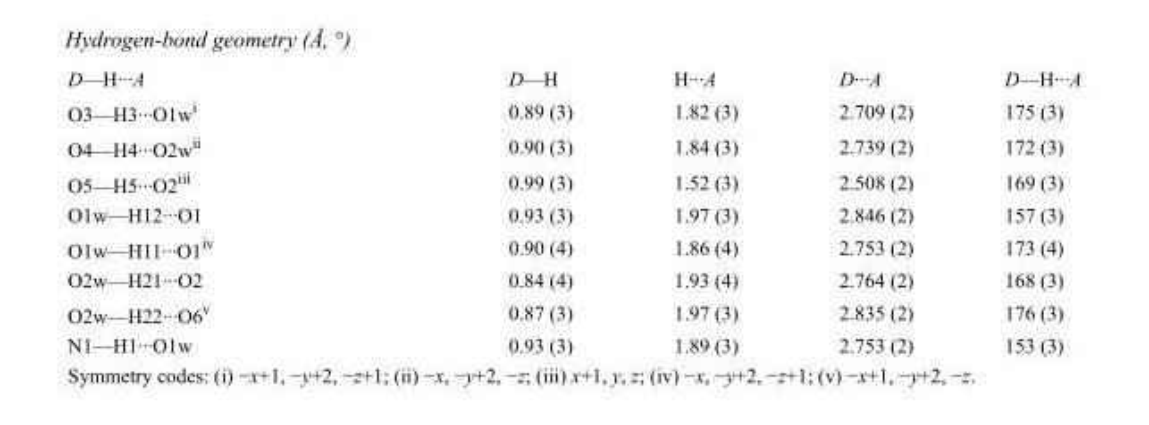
<table><tbody><tr><td>D—H···A</td><td>D—H</td><td>H···A</td><td>D···A</td><td>D—H···A</td></tr><tr><td>O3—H3···O1w<sup>i</sup></td><td>0.89 (3)</td><td>1.82 (3)</td><td>2.709 (2)</td><td>175 (3)</td></tr><tr><td>O4—H4···O2w<sup>ii</sup></td><td>0.90 (3)</td><td>1.84 (3)</td><td>2.739 (2)</td><td>172 (3)</td></tr><tr><td>O5—H5···O2<sup>iii</sup></td><td>0.99 (3)</td><td>1.52 (3)</td><td>2.508 (2)</td><td>169 (3)</td></tr><tr><td>O1w—H12···O1</td><td>0.93 (3)</td><td>1.97 (3)</td><td>2.846 (2)</td><td>157 (3)</td></tr><tr><td>O1w—H11···O1<sup>iv</sup></td><td>0.90 (4)</td><td>1.86 (4)</td><td>2.753 (2)</td><td>173 (4)</td></tr><tr><td>O2w—H21···O2</td><td>0.84 (4)</td><td>1.93 (4)</td><td>2.764 (2)</td><td>168 (3)</td></tr><tr><td>O2w—H22···O6<sup>v</sup></td><td>0.87 (3)</td><td>1.97 (3)</td><td>2.835 (2)</td><td>176 (3)</td></tr><tr><td>N1—H1···O1w</td><td>0.93 (3)</td><td>1.89 (3)</td><td>2.753 (2)</td><td>153 (3)</td></tr></tbody></table>